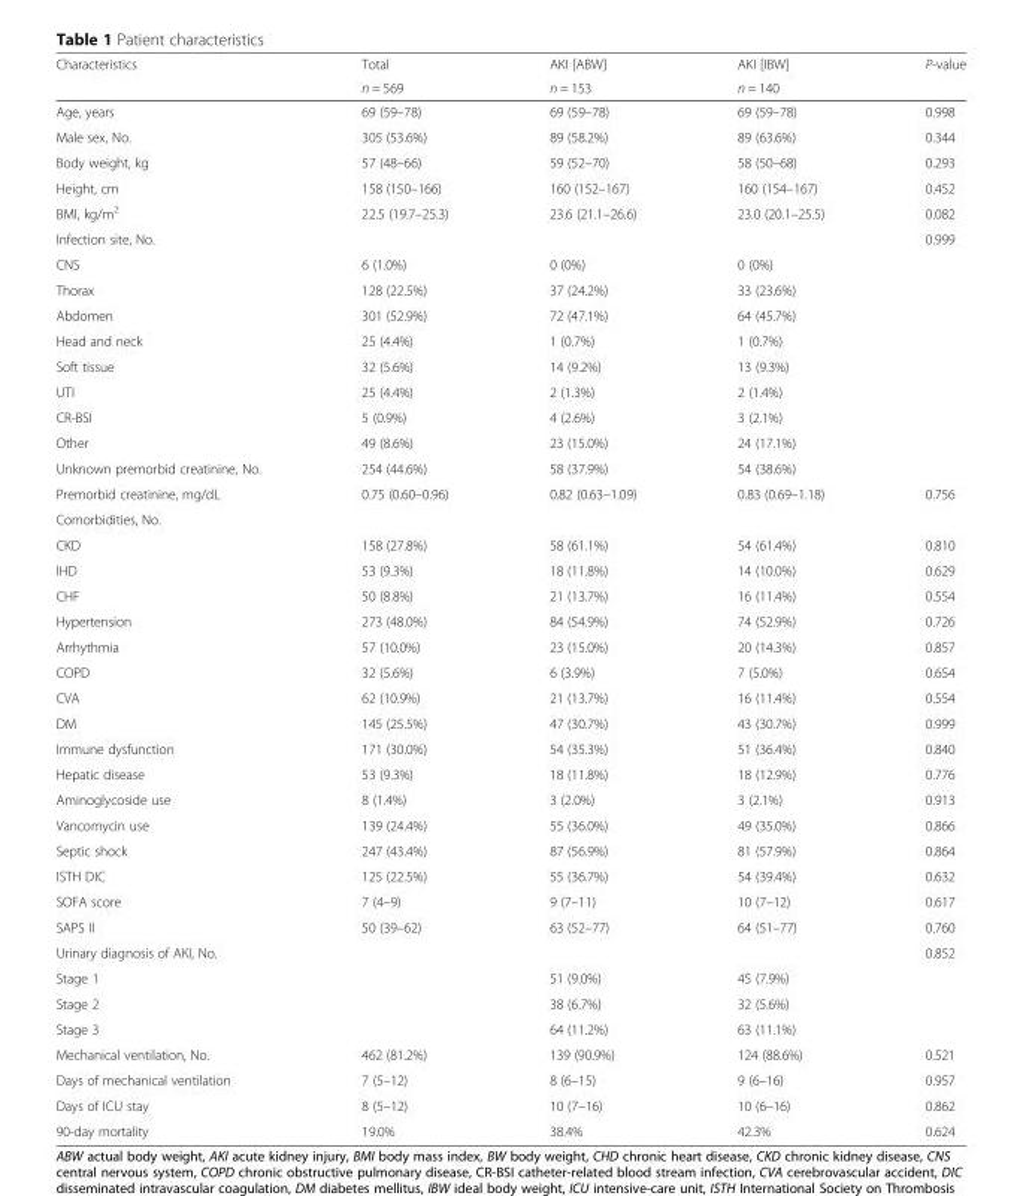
<table><thead><tr><td rowspan="2">Characteristics</td><td rowspan="2">Total n = 569</td><td rowspan="2">AKI [ABW] n = 153</td><td rowspan="2">AKI [IBW] n = 140</td><td rowspan="2">P-value</td></tr><tr></tr></thead><tbody><tr><td>Age, years</td><td>69 (59–78)</td><td>69 (59–78)</td><td>69 (59–78)</td><td>0.998</td></tr><tr><td>Male sex, No.</td><td>305 (53.6%)</td><td>89 (58.2%)</td><td>89 (63.6%)</td><td>0.344</td></tr><tr><td>Body weight, kg</td><td>57 (48–66)</td><td>59 (52–70)</td><td>58 (50–68)</td><td>0.293</td></tr><tr><td>Height, cm</td><td>158 (150–166)</td><td>160 (152–167)</td><td>160 (154–167)</td><td>0.452</td></tr><tr><td>BMI, kg/m<sup>2</sup></td><td>22.5 (19.7–25.3)</td><td>23.6 (21.1–26.6)</td><td>23.0 (20.1–25.5)</td><td>0.082</td></tr><tr><td>Infection site, No.</td><td></td><td></td><td></td><td>0.999</td></tr><tr><td>CNS</td><td>6 (1.0%)</td><td>0 (0%)</td><td>0 (0%)</td><td></td></tr><tr><td>Thorax</td><td>128 (22.5%)</td><td>37 (24.2%)</td><td>33 (23.6%)</td><td></td></tr><tr><td>Abdomen</td><td>301 (52.9%)</td><td>72 (47.1%)</td><td>64 (45.7%)</td><td></td></tr><tr><td>Head and neck</td><td>25 (4.4%)</td><td>1 (0.7%)</td><td>1 (0.7%)</td><td></td></tr><tr><td>Soft tissue</td><td>32 (5.6%)</td><td>14 (9.2%)</td><td>13 (9.3%)</td><td></td></tr><tr><td>UTI</td><td>25 (4.4%)</td><td>2 (1.3%)</td><td>2 (1.4%)</td><td></td></tr><tr><td>CR-BSI</td><td>5 (0.9%)</td><td>4 (2.6%)</td><td>3 (2.1%)</td><td></td></tr><tr><td>Other</td><td>49 (8.6%)</td><td>23 (15.0%)</td><td>24 (17.1%)</td><td></td></tr><tr><td>Unknown premorbid creatinine, No.</td><td>254 (44.6%)</td><td>58 (37.9%)</td><td>54 (38.6%)</td><td></td></tr><tr><td>Premorbid creatinine, mg/dL</td><td>0.75 (0.60–0.96)</td><td>0.82 (0.63–1.09)</td><td>0.83 (0.69–1.18)</td><td>0.756</td></tr><tr><td colspan="5">Comorbidities, No.</td></tr><tr><td>CKD</td><td>158 (27.8%)</td><td>58 (61.1%)</td><td>54 (61.4%)</td><td>0.810</td></tr><tr><td>IHD</td><td>53 (9.3%)</td><td>18 (11.8%)</td><td>14 (10.0%)</td><td>0.629</td></tr><tr><td>CHF</td><td>50 (8.8%)</td><td>21 (13.7%)</td><td>16 (11.4%)</td><td>0.554</td></tr><tr><td>Hypertension</td><td>273 (48.0%)</td><td>84 (54.9%)</td><td>74 (52.9%)</td><td>0.726</td></tr><tr><td>Arrhythmia</td><td>57 (10.0%)</td><td>23 (15.0%)</td><td>20 (14.3%)</td><td>0.857</td></tr><tr><td>COPD</td><td>32 (5.6%)</td><td>6 (3.9%)</td><td>7 (5.0%)</td><td>0.654</td></tr><tr><td>CVA</td><td>62 (10.9%)</td><td>21 (13.7%)</td><td>16 (11.4%)</td><td>0.554</td></tr><tr><td>DM</td><td>145 (25.5%)</td><td>47 (30.7%)</td><td>43 (30.7%)</td><td>0.999</td></tr><tr><td>Immune dysfunction</td><td>171 (30.0%)</td><td>54 (35.3%)</td><td>51 (36.4%)</td><td>0.840</td></tr><tr><td>Hepatic disease</td><td>53 (9.3%)</td><td>18 (11.8%)</td><td>18 (12.9%)</td><td>0.776</td></tr><tr><td>Aminoglycoside use</td><td>8 (1.4%)</td><td>3 (2.0%)</td><td>3 (2.1%)</td><td>0.913</td></tr><tr><td>Vancomycin use</td><td>139 (24.4%)</td><td>55 (36.0%)</td><td>49 (35.0%)</td><td>0.866</td></tr><tr><td>Septic shock</td><td>247 (43.4%)</td><td>87 (56.9%)</td><td>81 (57.9%)</td><td>0.864</td></tr><tr><td>ISTH DIC</td><td>125 (22.5%)</td><td>55 (36.7%)</td><td>54 (39.4%)</td><td>0.632</td></tr><tr><td>SOFA score</td><td>7 (4–9)</td><td>9 (7–11)</td><td>10 (7–12)</td><td>0.617</td></tr><tr><td>SAPS II</td><td>50 (39–62)</td><td>63 (52–77)</td><td>64 (51–77)</td><td>0.760</td></tr><tr><td>Urinary diagnosis of AKI, No.</td><td></td><td></td><td></td><td>0.852</td></tr><tr><td>Stage 1</td><td></td><td>51 (9.0%)</td><td>45 (7.9%)</td><td></td></tr><tr><td>Stage 2</td><td></td><td>38 (6.7%)</td><td>32 (5.6%)</td><td></td></tr><tr><td>Stage 3</td><td></td><td>64 (11.2%)</td><td>63 (11.1%)</td><td></td></tr><tr><td>Mechanical ventilation, No.</td><td>462 (81.2%)</td><td>139 (90.9%)</td><td>124 (88.6%)</td><td>0.521</td></tr><tr><td>Days of mechanical ventilation</td><td>7 (5–12)</td><td>8 (6–15)</td><td>9 (6–16)</td><td>0.957</td></tr><tr><td>Days of ICU stay</td><td>8 (5–12)</td><td>10 (7–16)</td><td>10 (6–16)</td><td>0.862</td></tr><tr><td>90-day mortality</td><td>19.0%</td><td>38.4%</td><td>42.3%</td><td>0.624</td></tr></tbody></table>